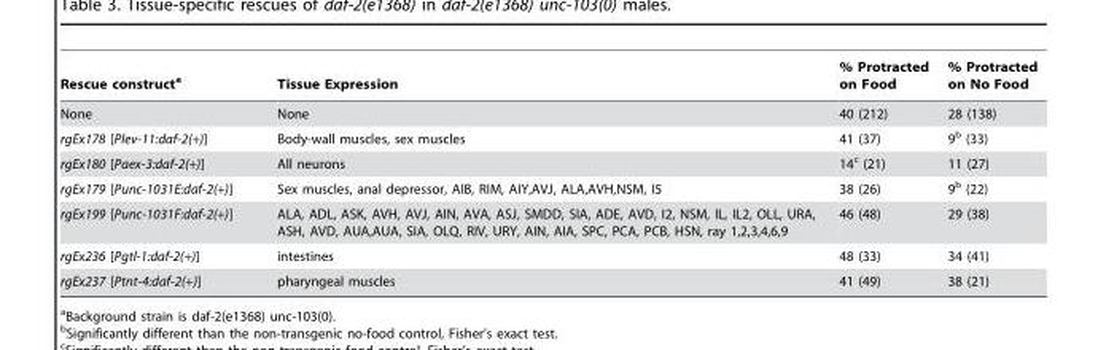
<table><thead><tr><td>Rescue construct<sup>a</sup></td><td>Tissue Expression</td><td>% Protracted on Food</td><td>% Protracted on No Food</td></tr></thead><tbody><tr><td>None</td><td>None</td><td>40 (212)</td><td>28 (138)</td></tr><tr><td>rgEx178 [Plev-11:daf-2(+)]</td><td>Body-wall muscles, sex muscles</td><td>41 (37)</td><td>9<sup>b</sup> (33)</td></tr><tr><td>rgEx180 [Paex-3:daf-2(+)]</td><td>All neurons</td><td>14<sup>c</sup> (21)</td><td>11 (27)</td></tr><tr><td>rgEx179 [Punc-1031E:daf-2(+)]</td><td>Sex muscles, anal depressor, AIB, RIM, AIY,AVJ, ALA,AVH,NSM, I5</td><td>38 (26)</td><td>9<sup>b</sup> (22)</td></tr><tr><td>rgEx199 [Punc-1031F:daf-2(+)]</td><td>ALA, ADL, ASK, AVH, AVJ, AIN, AVA, ASJ, SMDD, SIA, ADE, AVD, I2, NSM, IL, IL2, OLL, URA, ASH, AVD, AUA,AUA, SIA, OLQ, RIV, URY, AIN, AIA, SPC, PCA, PCB, HSN, ray 1,2,3,4,6,9</td><td>46 (48)</td><td>29 (38)</td></tr><tr><td>rgEx236 [Pgtl-1:daf-2(+)]</td><td>intestines</td><td>48 (33)</td><td>34 (41)</td></tr><tr><td>rgEx237 [Ptnt-4:daf-2(+)]</td><td>pharyngeal muscles</td><td>41 (49)</td><td>38 (21)</td></tr></tbody></table>